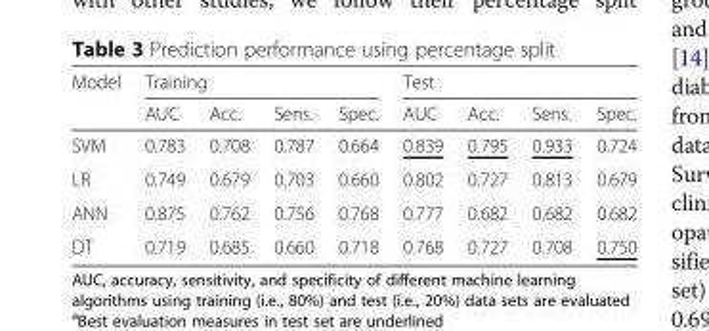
<table><thead><tr><td rowspan="2">Model</td><td colspan="4">Training</td><td colspan="4">Test</td></tr><tr><td>AUC</td><td>Acc.</td><td>Sens.</td><td>Spec.</td><td>AUC</td><td>Acc.</td><td>Sens.</td><td>Spec.</td></tr></thead><tbody><tr><td>SVM</td><td>0.783</td><td>0.708</td><td>0.787</td><td>0.664</td><td>0.839</td><td>0.795</td><td>0.933</td><td>0.724</td></tr><tr><td>LR</td><td>0.749</td><td>0.679</td><td>0.703</td><td>0.660</td><td>0.802</td><td>0.727</td><td>0.813</td><td>0.679</td></tr><tr><td>ANN</td><td>0.875</td><td>0.762</td><td>0.756</td><td>0.768</td><td>0.777</td><td>0.682</td><td>0.682</td><td>0.682</td></tr><tr><td>DT</td><td>0.719</td><td>0.685</td><td>0.660</td><td>0.718</td><td>0.768</td><td>0.727</td><td>0.708</td><td>0.750</td></tr></tbody></table>